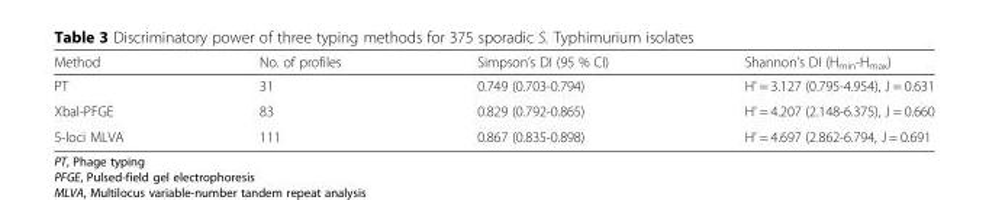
<table><thead><tr><td>Method</td><td>No. of profiles</td><td>Simpson’s DI (95 % CI)</td><td>Shannon’s DI (H<sub>min</sub>-H<sub>max</sub>)</td></tr></thead><tbody><tr><td>PT</td><td>31</td><td>0.749 (0.703-0.794)</td><td>H’ = 3.127 (0.795-4.954), J = 0.631</td></tr><tr><td>Xbal-PFGE</td><td>83</td><td>0.829 (0.792-0.865)</td><td>H’ = 4.207 (2.148-6.375), J = 0.660</td></tr><tr><td>5-loci MLVA</td><td>111</td><td>0.867 (0.835-0.898)</td><td>H’ = 4.697 (2.862-6.794, J = 0.691</td></tr></tbody></table>